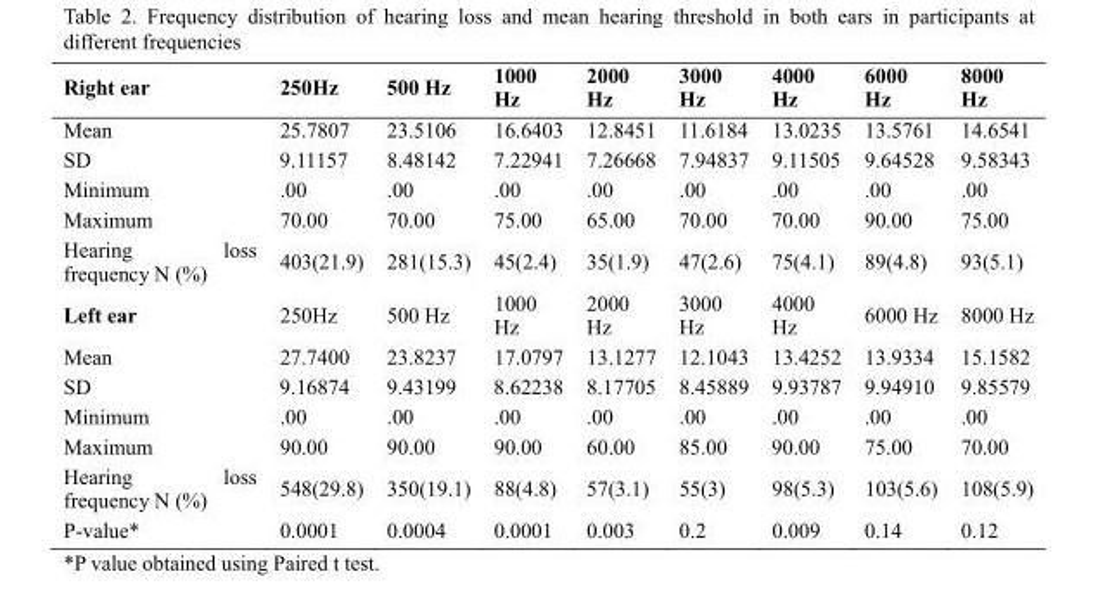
<table><thead><tr><td>Right ear</td><td>250Hz</td><td>500 Hz</td><td>1000 Hz</td><td>2000 Hz</td><td>3000 Hz</td><td>4000 Hz</td><td>6000 Hz</td><td>8000 Hz</td></tr></thead><tbody><tr><td>Mean</td><td>25.7807</td><td>23.5106</td><td>16.6403</td><td>12.8451</td><td>11.6184</td><td>13.0235</td><td>13.5761</td><td>14.6541</td></tr><tr><td>SD</td><td>9.11157</td><td>8.48142</td><td>7.22941</td><td>7.26668</td><td>7.94837</td><td>9.11505</td><td>9.64528</td><td>9.58343</td></tr><tr><td>Minimum</td><td>.00</td><td>.00</td><td>.00</td><td>.00</td><td>.00</td><td>.00</td><td>.00</td><td>.00</td></tr><tr><td>Maximum</td><td>70.00</td><td>70.00</td><td>75.00</td><td>65.00</td><td>70.00</td><td>70.00</td><td>90.00</td><td>75.00</td></tr><tr><td>Hearing loss frequency N (%)</td><td>403(21.9)</td><td>281(15.3)</td><td>45(2.4)</td><td>35(1.9)</td><td>47(2.6)</td><td>75(4.1)</td><td>89(4.8)</td><td>93(5.1)</td></tr><tr><td>Left ear</td><td>250Hz</td><td>500 Hz</td><td>1000 Hz</td><td>2000 Hz</td><td>3000 Hz</td><td>4000 Hz</td><td>6000 Hz</td><td>8000 Hz</td></tr><tr><td>Mean</td><td>27.7400</td><td>23.8237</td><td>17.0797</td><td>13.1277</td><td>12.1043</td><td>13.4252</td><td>13.9334</td><td>15.1582</td></tr><tr><td>SD</td><td>9.16874</td><td>9.43199</td><td>8.62238</td><td>8.17705</td><td>8.45889</td><td>9.93787</td><td>9.94910</td><td>9.85579</td></tr><tr><td>Minimum</td><td>.00</td><td>.00</td><td>.00</td><td>.00</td><td>.00</td><td>.00</td><td>.00</td><td>.00</td></tr><tr><td>Maximum</td><td>90.00</td><td>90.00</td><td>90.00</td><td>60.00</td><td>85.00</td><td>90.00</td><td>75.00</td><td>70.00</td></tr><tr><td>Hearing loss frequency N (%)</td><td>548(29.8)</td><td>350(19.1)</td><td>88(4.8)</td><td>57(3.1)</td><td>55(3)</td><td>98(5.3)</td><td>103(5.6)</td><td>108(5.9)</td></tr><tr><td>P-value*</td><td>0.0001</td><td>0.0004</td><td>0.0001</td><td>0.003</td><td>0.2</td><td>0.009</td><td>0.14</td><td>0.12</td></tr></tbody></table>